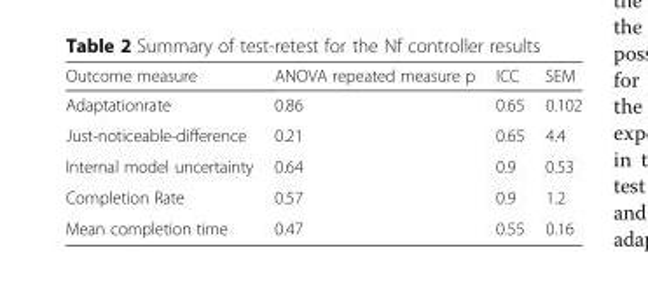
<table><thead><tr><td>Outcome measure</td><td>ANOVA repeated measure p</td><td>ICC</td><td>SEM</td></tr></thead><tbody><tr><td>Adaptationrate</td><td>0.86</td><td>0.65</td><td>0.102</td></tr><tr><td>Just-noticeable-difference</td><td>0.21</td><td>0.65</td><td>4.4</td></tr><tr><td>Internal model uncertainty</td><td>0.64</td><td>0.9</td><td>0.53</td></tr><tr><td>Completion Rate</td><td>0.57</td><td>0.9</td><td>1.2</td></tr><tr><td>Mean completion time</td><td>0.47</td><td>0.55</td><td>0.16</td></tr></tbody></table>